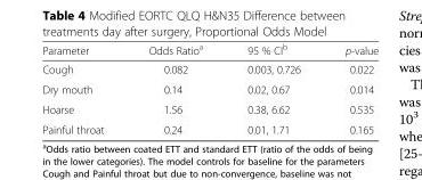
<table><thead><tr><td>Parameter</td><td>Odds Ratio<sup>a</sup></td><td>95 % CI<sup>b</sup></td><td>p-value</td></tr></thead><tbody><tr><td>Cough</td><td>0.082</td><td>0.003, 0.726</td><td>0.022</td></tr><tr><td>Dry mouth</td><td>0.14</td><td>0.02, 0.67</td><td>0.014</td></tr><tr><td>Hoarse</td><td>1.56</td><td>0.38, 6.62</td><td>0.535</td></tr><tr><td>Painful throat</td><td>0.24</td><td>0.01, 1.71</td><td>0.165</td></tr></tbody></table>